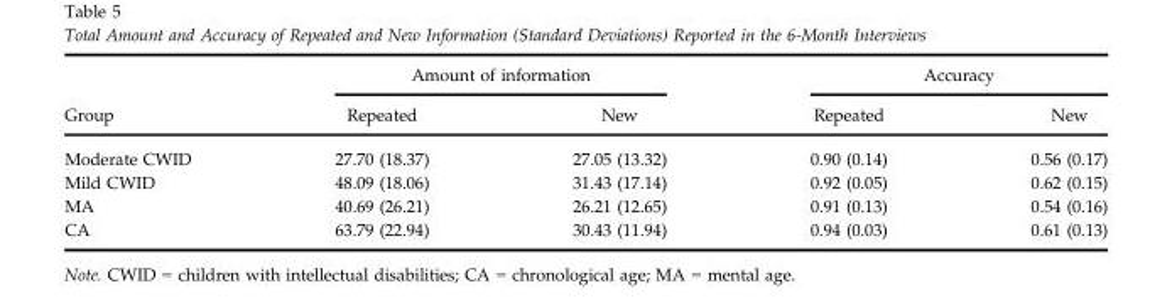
<table><thead><tr><td rowspan="2">Group</td><td colspan="2">Amount of information</td><td colspan="2">Accuracy</td></tr><tr><td>Repeated</td><td>New</td><td>Repeated</td><td>New</td></tr></thead><tbody><tr><td>Moderate CWID</td><td>27.70 (18.37)</td><td>27.05 (13.32)</td><td>0.90 (0.14)</td><td>0.56 (0.17)</td></tr><tr><td>Mild CWID</td><td>48.09 (18.06)</td><td>31.43 (17.14)</td><td>0.92 (0.05)</td><td>0.62 (0.15)</td></tr><tr><td>MA</td><td>40.69 (26.21)</td><td>26.21 (12.65)</td><td>0.91 (0.13)</td><td>0.54 (0.16)</td></tr><tr><td>CA</td><td>63.79 (22.94)</td><td>30.43 (11.94)</td><td>0.94 (0.03)</td><td>0.61 (0.13)</td></tr></tbody></table>